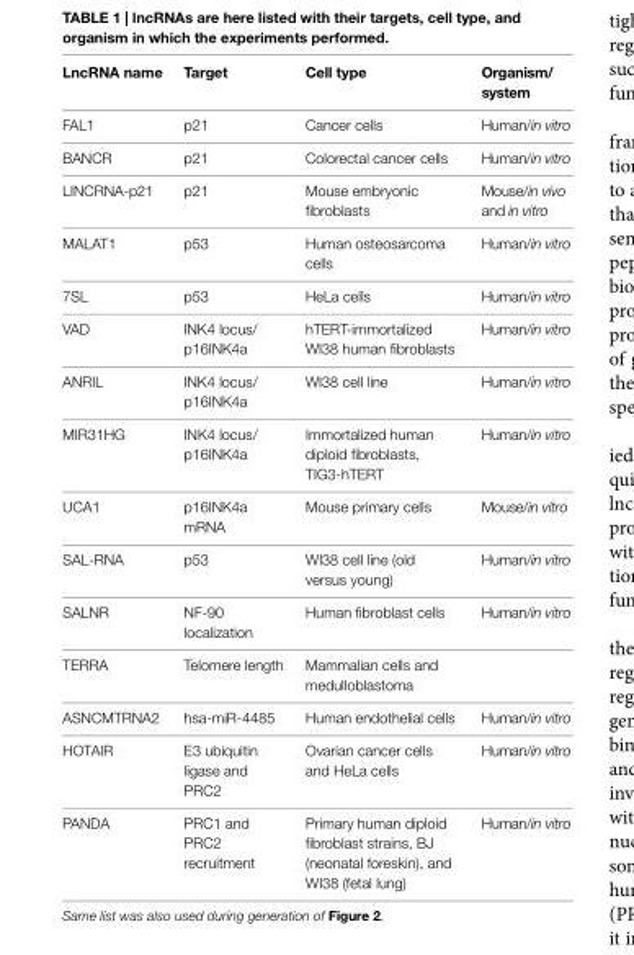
<table><thead><tr><td>LncRNA name</td><td>Target</td><td>Cell type</td><td>Organism/ system</td></tr></thead><tbody><tr><td>FAL1</td><td>p21</td><td>Cancer cells</td><td>Human/in vitro</td></tr><tr><td>BANCR</td><td>p21</td><td>Colorectal cancer cells</td><td>Human/in vitro</td></tr><tr><td>LINCRNA-p21</td><td>p21</td><td>Mouse embryonic fibroblasts</td><td>Mouse/in vivo and in vitro</td></tr><tr><td>MALAT1</td><td>p53</td><td>Human osteosarcoma cells</td><td>Human/in vitro</td></tr><tr><td>7SL</td><td>p53</td><td>HeLa cells</td><td>Human/in vitro</td></tr><tr><td>VAD</td><td>INK4 locus/ p16INK4a</td><td>hTERT-immortalized WI38 human fibroblasts</td><td>Human/in vitro</td></tr><tr><td>ANRIL</td><td>INK4 locus/ p16INK4a</td><td>WI38 cell line</td><td>Human/in vitro</td></tr><tr><td>MIR31HG</td><td>INK4 locus/ p16INK4a</td><td>Immortalized human diploid fibroblasts, TIG3-hTERT</td><td>Human/in vitro</td></tr><tr><td>UCA1</td><td>p16INK4a mRNA</td><td>Mouse primary cells</td><td>Mouse/in vitro</td></tr><tr><td>SAL-RNA</td><td>p53</td><td>WI38 cell line (old versus young)</td><td>Human/in vitro</td></tr><tr><td>SALNR</td><td>NF-90 localization</td><td>Human fibroblast cells</td><td>Human/in vitro</td></tr><tr><td>TERRA</td><td>Telomere length</td><td>Mammalian cells and medulloblastoma</td><td></td></tr><tr><td>ASNCMTRNA2</td><td>hsa-miR-4485</td><td>Human endothelial cells</td><td>Human/in vitro</td></tr><tr><td>HOTAIR</td><td>E3 ubiquitin ligase and PRC2</td><td>Ovarian cancer cells and HeLa cells</td><td>Human/in vitro</td></tr><tr><td>PANDA</td><td>PRC1 and PRC2 recruitment</td><td>Primary human diploid fibroblast strains, BJ (neonatal foreskin), and WI38 (fetal lung)</td><td>Human/in vitro</td></tr></tbody></table>